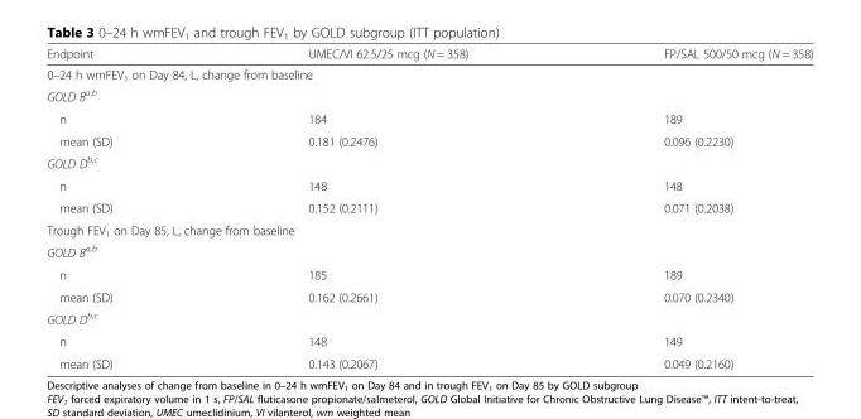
<table><thead><tr><td>Endpoint</td><td>UMEC/VI 62.5/25 mcg (N = 358)</td><td>FP/SAL 500/50 mcg (N = 358)</td></tr></thead><tbody><tr><td colspan="3">0–24 h wmFEV<sub>1</sub> on Day 84, L, change from baseline</td></tr><tr><td colspan="3">GOLD B<sup>a,b</sup></td></tr><tr><td>n</td><td>184</td><td>189</td></tr><tr><td>mean (SD)</td><td>0.181 (0.2476)</td><td>0.096 (0.2230)</td></tr><tr><td colspan="3">GOLD D<sup>b,c</sup></td></tr><tr><td>n</td><td>148</td><td>148</td></tr><tr><td>mean (SD)</td><td>0.152 (0.2111)</td><td>0.071 (0.2038)</td></tr><tr><td colspan="3">Trough FEV<sub>1</sub> on Day 85, L, change from baseline</td></tr><tr><td colspan="3">GOLD B<sup>a,b</sup></td></tr><tr><td>n</td><td>185</td><td>189</td></tr><tr><td>mean (SD)</td><td>0.162 (0.2661)</td><td>0.070 (0.2340)</td></tr><tr><td colspan="3">GOLD D<sup>b,c</sup></td></tr><tr><td>n</td><td>148</td><td>149</td></tr><tr><td>mean (SD)</td><td>0.143 (0.2067)</td><td>0.049 (0.2160)</td></tr></tbody></table>